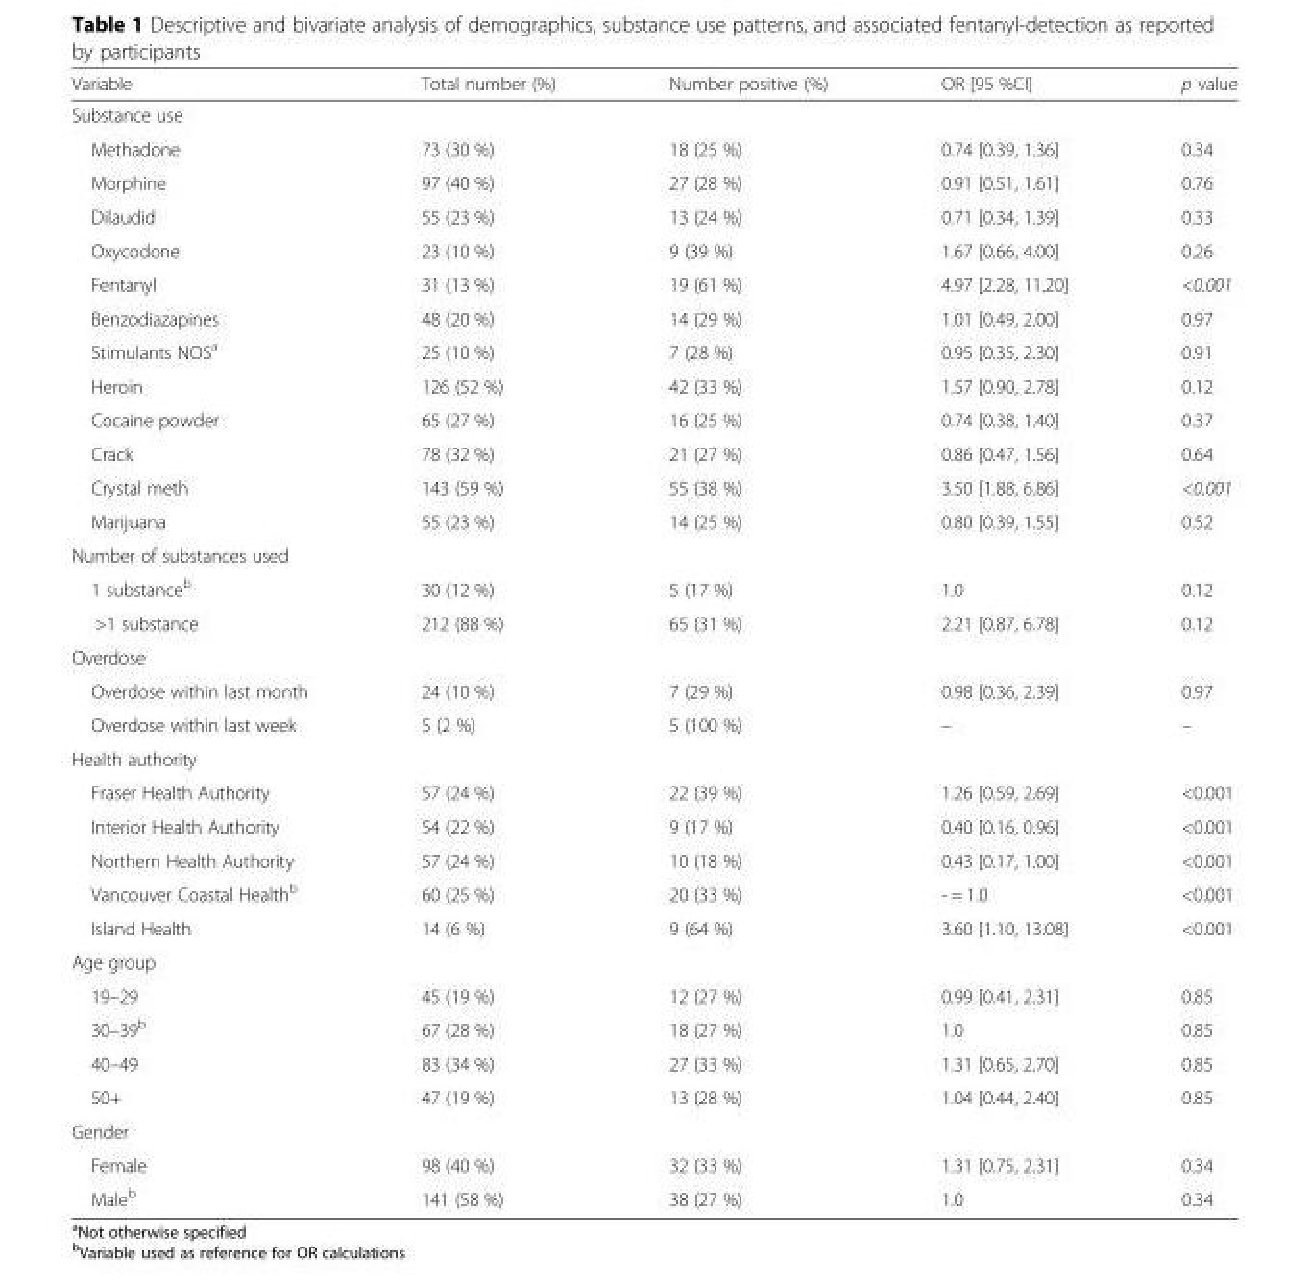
<table><thead><tr><td>Variable</td><td>Total number (%)</td><td>Number positive (%)</td><td>OR [95 %CI]</td><td>p value</td></tr></thead><tbody><tr><td colspan="5">Substance use</td></tr><tr><td>Methadone</td><td>73 (30 %)</td><td>18 (25 %)</td><td>0.74 [0.39, 1.36]</td><td>0.34</td></tr><tr><td>Morphine</td><td>97 (40 %)</td><td>27 (28 %)</td><td>0.91 [0.51, 1.61]</td><td>0.76</td></tr><tr><td>Dilaudid</td><td>55 (23 %)</td><td>13 (24 %)</td><td>0.71 [0.34, 1.39]</td><td>0.33</td></tr><tr><td>Oxycodone</td><td>23 (10 %)</td><td>9 (39 %)</td><td>1.67 [0.66, 4.00]</td><td>0.26</td></tr><tr><td>Fentanyl</td><td>31 (13 %)</td><td>19 (61 %)</td><td>4.97 [2.28, 11.20]</td><td>&lt;0.001</td></tr><tr><td>Benzodiazapines</td><td>48 (20 %)</td><td>14 (29 %)</td><td>1.01 [0.49, 2.00]</td><td>0.97</td></tr><tr><td>Stimulants NOS<sup>a</sup></td><td>25 (10 %)</td><td>7 (28 %)</td><td>0.95 [0.35, 2.30]</td><td>0.91</td></tr><tr><td>Heroin</td><td>126 (52 %)</td><td>42 (33 %)</td><td>1.57 [0.90, 2.78]</td><td>0.12</td></tr><tr><td>Cocaine powder</td><td>65 (27 %)</td><td>16 (25 %)</td><td>0.74 [0.38, 1.40]</td><td>0.37</td></tr><tr><td>Crack</td><td>78 (32 %)</td><td>21 (27 %)</td><td>0.86 [0.47, 1.56]</td><td>0.64</td></tr><tr><td>Crystal meth</td><td>143 (59 %)</td><td>55 (38 %)</td><td>3.50 [1.88, 6.86]</td><td>&lt;0.001</td></tr><tr><td>Marijuana</td><td>55 (23 %)</td><td>14 (25 %)</td><td>0.80 [0.39, 1.55]</td><td>0.52</td></tr><tr><td colspan="5">Number of substances used</td></tr><tr><td>1 substance<sup>b</sup></td><td>30 (12 %)</td><td>5 (17 %)</td><td>1.0</td><td>0.12</td></tr><tr><td>&gt;1 substance</td><td>212 (88 %)</td><td>65 (31 %)</td><td>2.21 [0.87, 6.78]</td><td>0.12</td></tr><tr><td colspan="5">Overdose</td></tr><tr><td>Overdose within last month</td><td>24 (10 %)</td><td>7 (29 %)</td><td>0.98 [0.36, 2.39]</td><td>0.97</td></tr><tr><td>Overdose within last week</td><td>5 (2 %)</td><td>5 (100 %)</td><td>–</td><td>–</td></tr><tr><td colspan="5">Health authority</td></tr><tr><td>Fraser Health Authority</td><td>57 (24 %)</td><td>22 (39 %)</td><td>1.26 [0.59, 2.69]</td><td>&lt;0.001</td></tr><tr><td>Interior Health Authority</td><td>54 (22 %)</td><td>9 (17 %)</td><td>0.40 [0.16, 0.96]</td><td>&lt;0.001</td></tr><tr><td>Northern Health Authority</td><td>57 (24 %)</td><td>10 (18 %)</td><td>0.43 [0.17, 1.00]</td><td>&lt;0.001</td></tr><tr><td>Vancouver Coastal Health<sup>b</sup></td><td>60 (25 %)</td><td>20 (33 %)</td><td>- = 1.0</td><td>&lt;0.001</td></tr><tr><td>Island Health</td><td>14 (6 %)</td><td>9 (64 %)</td><td>3.60 [1.10, 13.08]</td><td>&lt;0.001</td></tr><tr><td colspan="5">Age group</td></tr><tr><td>19–29</td><td>45 (19 %)</td><td>12 (27 %)</td><td>0.99 [0.41, 2.31]</td><td>0.85</td></tr><tr><td>30–39<sup>b</sup></td><td>67 (28 %)</td><td>18 (27 %)</td><td>1.0</td><td>0.85</td></tr><tr><td>40–49</td><td>83 (34 %)</td><td>27 (33 %)</td><td>1.31 [0.65, 2.70]</td><td>0.85</td></tr><tr><td>50+</td><td>47 (19 %)</td><td>13 (28 %)</td><td>1.04 [0.44, 2.40]</td><td>0.85</td></tr><tr><td colspan="5">Gender</td></tr><tr><td>Female</td><td>98 (40 %)</td><td>32 (33 %)</td><td>1.31 [0.75, 2.31]</td><td>0.34</td></tr><tr><td>Male<sup>b</sup></td><td>141 (58 %)</td><td>38 (27 %)</td><td>1.0</td><td>0.34</td></tr></tbody></table>